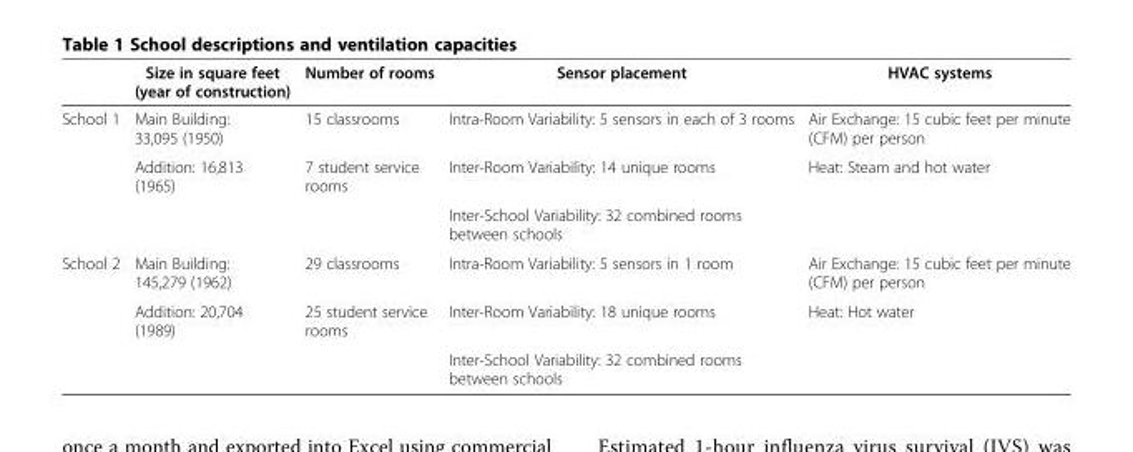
<table><thead><tr><td></td><td>Size in square feet (year of construction)</td><td>Number of rooms</td><td>Sensor placement</td><td>HVAC systems</td></tr></thead><tbody><tr><td rowspan="3">School 1</td><td>Main Building: 33,095 (1950)</td><td>15 classrooms</td><td>Intra-Room Variability: 5 sensors in each of 3 rooms</td><td>Air Exchange: 15 cubic feet per minute (CFM) per person</td></tr><tr><td>Addition: 16,813 (1965)</td><td>7 student service rooms</td><td>Inter-Room Variability: 14 unique rooms</td><td>Heat: Steam and hot water</td></tr><tr><td></td><td></td><td>Inter-School Variability: 32 combined rooms between schools</td><td></td></tr><tr><td rowspan="3">School 2</td><td>Main Building: 145,279 (1962)</td><td>29 classrooms</td><td>Intra-Room Variability: 5 sensors in 1 room</td><td>Air Exchange: 15 cubic feet per minute (CFM) per person</td></tr><tr><td>Addition: 20,704 (1989)</td><td>25 student service rooms</td><td>Inter-Room Variability: 18 unique rooms</td><td>Heat: Hot water</td></tr><tr><td></td><td></td><td>Inter-School Variability: 32 combined rooms between schools</td><td></td></tr></tbody></table>